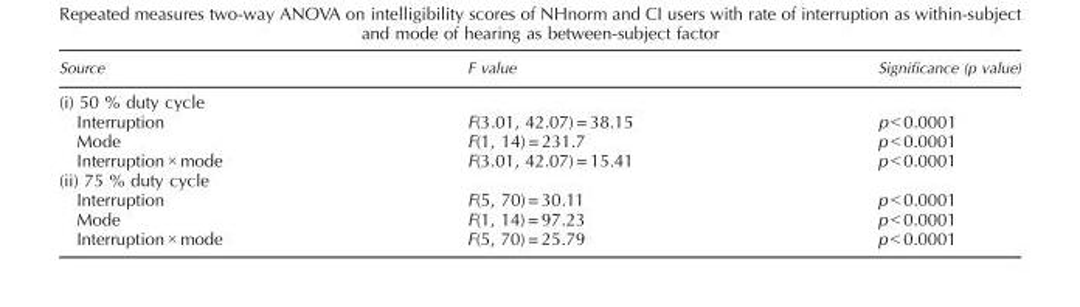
<table><thead><tr><td>Source</td><td>F value</td><td>Significance (p value)</td></tr></thead><tbody><tr><td colspan="3">(i) 50 % duty cycle</td></tr><tr><td>Interruption</td><td>F(3.01, 42.07) = 38.15</td><td>p &lt; 0.0001</td></tr><tr><td>Mode</td><td>F(1, 14) = 231.7</td><td>p &lt; 0.0001</td></tr><tr><td>Interruption × mode</td><td>F(3.01, 42.07) = 15.41</td><td>p &lt; 0.0001</td></tr><tr><td colspan="3">(ii) 75 % duty cycle</td></tr><tr><td>Interruption</td><td>F(5, 70) = 30.11</td><td>p &lt; 0.0001</td></tr><tr><td>Mode</td><td>F(1, 14) = 97.23</td><td>p &lt; 0.0001</td></tr><tr><td>Interruption × mode</td><td>F(5, 70) = 25.79</td><td>p &lt; 0.0001</td></tr></tbody></table>